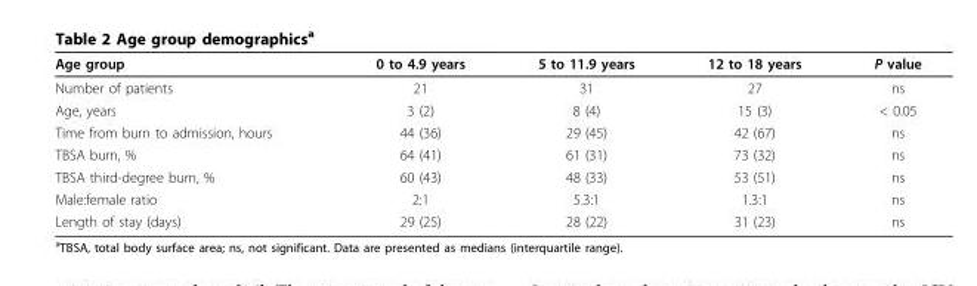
<table><thead><tr><td>Age group</td><td>0 to 4.9 years</td><td>5 to 11.9 years</td><td>12 to 18 years</td><td>P value</td></tr></thead><tbody><tr><td>Number of patients</td><td>21</td><td>31</td><td>27</td><td>ns</td></tr><tr><td>Age, years</td><td>3 (2)</td><td>8 (4)</td><td>15 (3)</td><td>&lt; 0.05</td></tr><tr><td>Time from burn to admission, hours</td><td>44 (36)</td><td>29 (45)</td><td>42 (67)</td><td>ns</td></tr><tr><td>TBSA burn, %</td><td>64 (41)</td><td>61 (31)</td><td>73 (32)</td><td>ns</td></tr><tr><td>TBSA third-degree burn, %</td><td>60 (43)</td><td>48 (33)</td><td>53 (51)</td><td>ns</td></tr><tr><td>Male:female ratio</td><td>2:1</td><td>5.3:1</td><td>1.3:1</td><td>ns</td></tr><tr><td>Length of stay (days)</td><td>29 (25)</td><td>28 (22)</td><td>31 (23)</td><td>ns</td></tr></tbody></table>